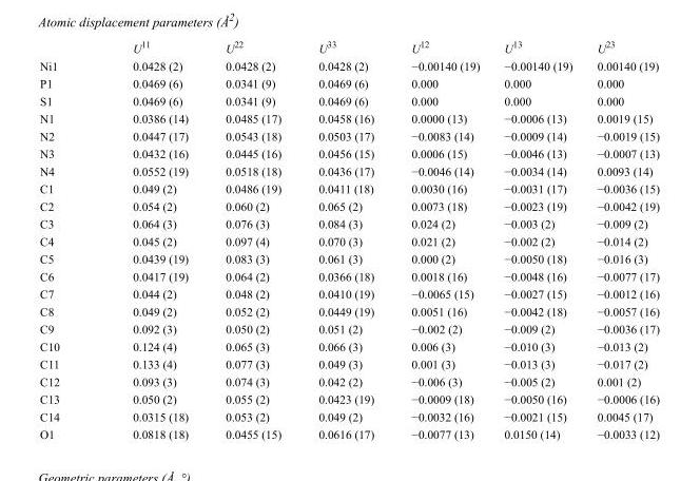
<table><thead><tr><td></td><td>U<sup>11</sup></td><td>U<sup>22</sup></td><td>U<sup>33</sup></td><td>U<sup>12</sup></td><td>U<sup>13</sup></td><td>U<sup>23</sup></td></tr></thead><tbody><tr><td>Ni1</td><td>0.0428 (2)</td><td>0.0428 (2)</td><td>0.0428 (2)</td><td>−0.00140 (19)</td><td>−0.00140 (19)</td><td>0.00140 (19)</td></tr><tr><td>P1</td><td>0.0469 (6)</td><td>0.0341 (9)</td><td>0.0469 (6)</td><td>0.000</td><td>0.000</td><td>0.000</td></tr><tr><td>S1</td><td>0.0469 (6)</td><td>0.0341 (9)</td><td>0.0469 (6)</td><td>0.000</td><td>0.000</td><td>0.000</td></tr><tr><td>N1</td><td>0.0386 (14)</td><td>0.0485 (17)</td><td>0.0458 (16)</td><td>0.0000 (13)</td><td>−0.0006 (13)</td><td>0.0019 (15)</td></tr><tr><td>N2</td><td>0.0447 (17)</td><td>0.0543 (18)</td><td>0.0503 (17)</td><td>−0.0083 (14)</td><td>−0.0009 (14)</td><td>−0.0019 (15)</td></tr><tr><td>N3</td><td>0.0432 (16)</td><td>0.0445 (16)</td><td>0.0456 (15)</td><td>0.0006 (15)</td><td>−0.0046 (13)</td><td>−0.0007 (13)</td></tr><tr><td>N4</td><td>0.0552 (19)</td><td>0.0518 (18)</td><td>0.0436 (17)</td><td>−0.0046 (14)</td><td>−0.0034 (14)</td><td>0.0093 (14)</td></tr><tr><td>C1</td><td>0.049 (2)</td><td>0.0486 (19)</td><td>0.0411 (18)</td><td>0.0030 (16)</td><td>−0.0031 (17)</td><td>−0.0036 (15)</td></tr><tr><td>C2</td><td>0.054 (2)</td><td>0.060 (2)</td><td>0.065 (2)</td><td>0.0073 (18)</td><td>−0.0023 (19)</td><td>−0.0042 (19)</td></tr><tr><td>C3</td><td>0.064 (3)</td><td>0.076 (3)</td><td>0.084 (3)</td><td>0.024 (2)</td><td>−0.003 (2)</td><td>−0.009 (2)</td></tr><tr><td>C4</td><td>0.045 (2)</td><td>0.097 (4)</td><td>0.070 (3)</td><td>0.021 (2)</td><td>−0.002 (2)</td><td>−0.014 (2)</td></tr><tr><td>C5</td><td>0.0439 (19)</td><td>0.083 (3)</td><td>0.061 (3)</td><td>0.000 (2)</td><td>−0.0050 (18)</td><td>−0.016 (3)</td></tr><tr><td>C6</td><td>0.0417 (19)</td><td>0.064 (2)</td><td>0.0366 (18)</td><td>0.0018 (16)</td><td>−0.0048 (16)</td><td>−0.0077 (17)</td></tr><tr><td>C7</td><td>0.044 (2)</td><td>0.048 (2)</td><td>0.0410 (19)</td><td>−0.0065 (15)</td><td>−0.0027 (15)</td><td>−0.0012 (16)</td></tr><tr><td>C8</td><td>0.049 (2)</td><td>0.052 (2)</td><td>0.0449 (19)</td><td>0.0051 (16)</td><td>−0.0042 (18)</td><td>−0.0057 (16)</td></tr><tr><td>C9</td><td>0.092 (3)</td><td>0.050 (2)</td><td>0.051 (2)</td><td>−0.002 (2)</td><td>−0.009 (2)</td><td>−0.0036 (17)</td></tr><tr><td>C10</td><td>0.124 (4)</td><td>0.065 (3)</td><td>0.066 (3)</td><td>0.006 (3)</td><td>−0.010 (3)</td><td>−0.013 (2)</td></tr><tr><td>C11</td><td>0.133 (4)</td><td>0.077 (3)</td><td>0.049 (3)</td><td>0.001 (3)</td><td>−0.013 (3)</td><td>−0.017 (2)</td></tr><tr><td>C12</td><td>0.093 (3)</td><td>0.074 (3)</td><td>0.042 (2)</td><td>−0.006 (3)</td><td>−0.005 (2)</td><td>0.001 (2)</td></tr><tr><td>C13</td><td>0.050 (2)</td><td>0.055 (2)</td><td>0.0423 (19)</td><td>−0.0009 (18)</td><td>−0.0050 (16)</td><td>−0.0006 (16)</td></tr><tr><td>C14</td><td>0.0315 (18)</td><td>0.053 (2)</td><td>0.049 (2)</td><td>−0.0032 (16)</td><td>−0.0021 (15)</td><td>0.0045 (17)</td></tr><tr><td>O1</td><td>0.0818 (18)</td><td>0.0455 (15)</td><td>0.0616 (17)</td><td>−0.0077 (13)</td><td>0.0150 (14)</td><td>−0.0033 (12)</td></tr></tbody></table>